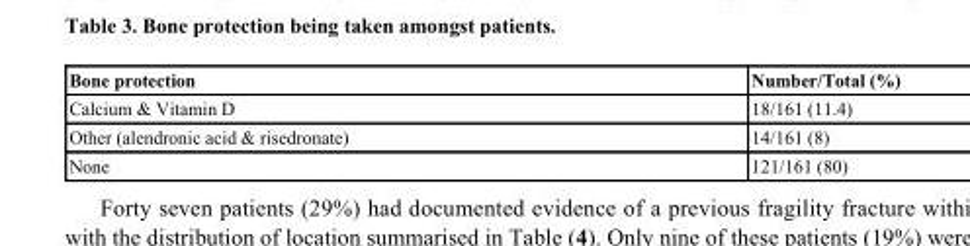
<table><thead><tr><td>Bone protection</td><td>Number/Total (%)</td></tr></thead><tbody><tr><td>Calcium &amp; Vitamin D</td><td>18/161 (11.4)</td></tr><tr><td>Other (alendronic acid &amp; risedronate)</td><td>14/161 (8)</td></tr><tr><td>None</td><td>121/161 (80)</td></tr></tbody></table>